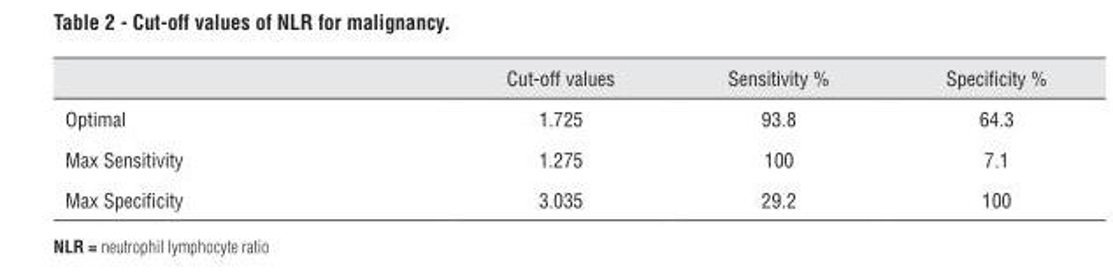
<table><thead><tr><td></td><td>Cut-off values</td><td>Sensitivity %</td><td>Specificity %</td></tr></thead><tbody><tr><td>Optimal</td><td>1.725</td><td>93.8</td><td>64.3</td></tr><tr><td>Max Sensitivity</td><td>1.275</td><td>100</td><td>7.1</td></tr><tr><td>Max Specificity</td><td>3.035</td><td>29.2</td><td>100</td></tr></tbody></table>